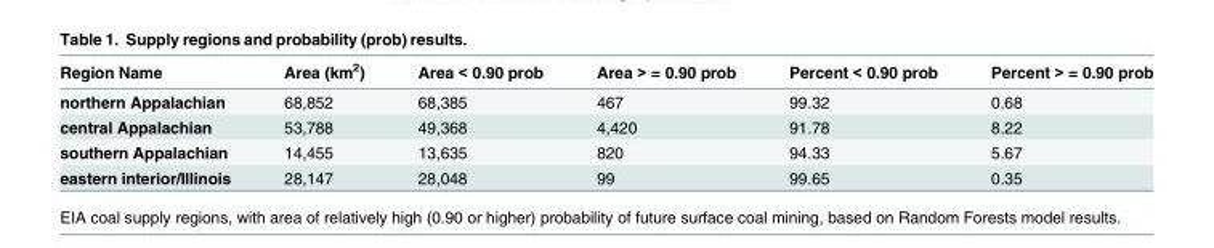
<table><thead><tr><td>Region Name</td><td>Area (km<sup>2</sup>)</td><td>Area &lt; 0.90 prob</td><td>Area &gt; = 0.90 prob</td><td>Percent &lt; 0.90 prob</td><td>Percent &gt; = 0.90 prob</td></tr></thead><tbody><tr><td>northern Appalachian</td><td>68,852</td><td>68,385</td><td>467</td><td>99.32</td><td>0.68</td></tr><tr><td>central Appalachian</td><td>53,788</td><td>49,368</td><td>4,420</td><td>91.78</td><td>8.22</td></tr><tr><td>southern Appalachian</td><td>14,455</td><td>13,635</td><td>820</td><td>94.33</td><td>5.67</td></tr><tr><td>eastern interior/Illinois</td><td>28,147</td><td>28,048</td><td>99</td><td>99.65</td><td>0.35</td></tr></tbody></table>